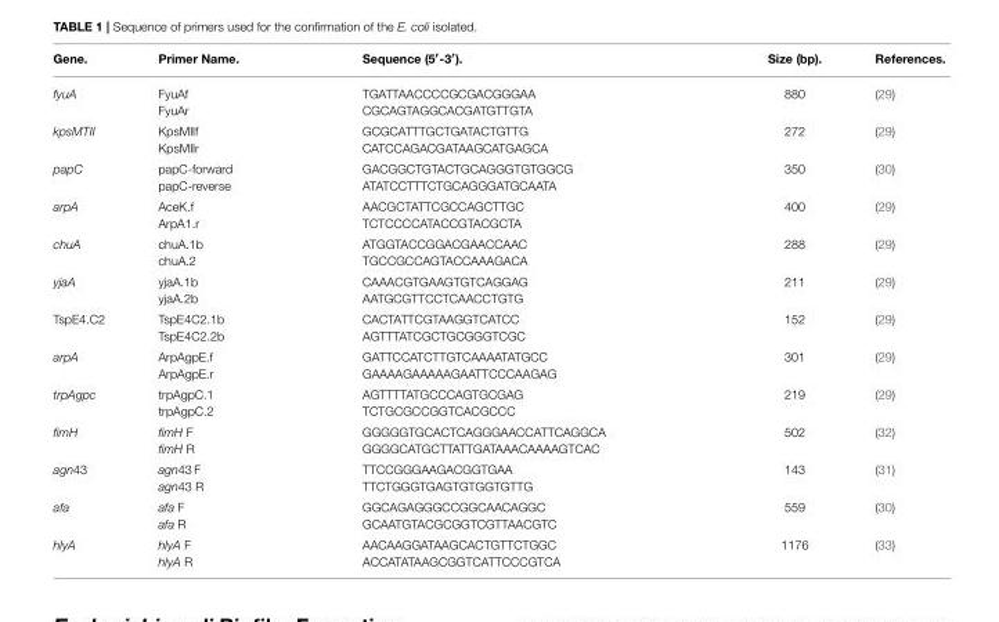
<table><thead><tr><td>Gene.</td><td>Primer Name.</td><td>Sequence (5<sup>′</sup>-3<sup>′</sup>).</td><td>Size (bp).</td><td>References.</td></tr></thead><tbody><tr><td>fyuA</td><td>FyuAf FyuAr</td><td>TGATTAACCCCGCGACGGGAA CGCAGTAGGCACGATGTTGTA</td><td>880</td><td>(29)</td></tr><tr><td>kpsMTII</td><td>KpsMIIf KpsMIIr</td><td>GCGCATTTGCTGATACTGTTG CATCCAGACGATAAGCATGAGCA</td><td>272</td><td>(29)</td></tr><tr><td>papC</td><td>papC-forward papC-reverse</td><td>GACGGCTGTACTGCAGGGTGTGGCG ATATCCTTTCTGCAGGGATGCAATA</td><td>350</td><td>(30)</td></tr><tr><td>arpA</td><td>AceK.f ArpA1.r</td><td>AACGCTATTCGCCAGCTTGC TCTCCCCATACCGTACGCTA</td><td>400</td><td>(29)</td></tr><tr><td>chuA</td><td>chuA.1b chuA.2</td><td>ATGGTACCGGACGAACCAAC TGCCGCCAGTACCAAAGACA</td><td>288</td><td>(29)</td></tr><tr><td>yjaA</td><td>yjaA.1b yjaA.2b</td><td>CAAACGTGAAGTGTCAGGAG AATGCGTTCCTCAACCTGTG</td><td>211</td><td>(29)</td></tr><tr><td>TspE4.C2</td><td>TspE4C2.1b TspE4C2.2b</td><td>CACTATTCGTAAGGTCATCC AGTTTATCGCTGCGGGTCGC</td><td>152</td><td>(29)</td></tr><tr><td>arpA</td><td>ArpAgpE.f ArpAgpE.r</td><td>GATTCCATCTTGTCAAAATATGCC GAAAAGAAAAAGAATTCCCAAGAG</td><td>301</td><td>(29)</td></tr><tr><td>trpAgpc</td><td>trpAgpC.1 trpAgpC.2</td><td>AGTTTTATGCCCAGTGCGAG TCTGCGCCGGTCACGCCC</td><td>219</td><td>(29)</td></tr><tr><td>fimH</td><td>fimH F fimH R</td><td>GGGGGTGCACTCAGGGAACCATTCAGGCA GGGGCATGCTTATTGATAAACAAAAGTCAC</td><td>502</td><td>(32)</td></tr><tr><td>agn43</td><td>agn43 F agn43 R</td><td>TTCCGGGAAGACGGTGAA TTCTGGGTGAGTGTGGTGTTG</td><td>143</td><td>(31)</td></tr><tr><td>afa</td><td>afa F afa R</td><td>GGCAGAGGGCCGGCAACAGGC GCAATGTACGCGGTCGTTAACGTC</td><td>559</td><td>(30)</td></tr><tr><td>hlyA</td><td>hlyA F hlyA R</td><td>AACAAGGATAAGCACTGTTCTGGC ACCATATAAGCGGTCATTCCCGTCA</td><td>1176</td><td>(33)</td></tr></tbody></table>